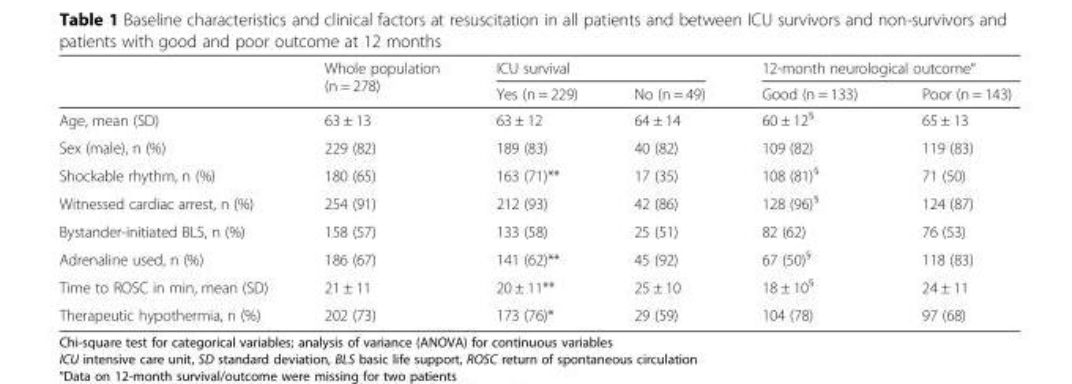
<table><thead><tr><td rowspan="2"></td><td rowspan="2">Whole population (n = 278)</td><td colspan="2">ICU survival</td><td colspan="2">12-month neurological outcome°</td></tr><tr><td>Yes (n = 229)</td><td>No (n = 49)</td><td>Good (n = 133)</td><td>Poor (n = 143)</td></tr></thead><tbody><tr><td>Age, mean (SD)</td><td>63 ± 13</td><td>63 ± 12</td><td>64 ± 14</td><td>60 ± 12<sup>§</sup></td><td>65 ± 13</td></tr><tr><td>Sex (male), n (%)</td><td>229 (82)</td><td>189 (83)</td><td>40 (82)</td><td>109 (82)</td><td>119 (83)</td></tr><tr><td>Shockable rhythm, n (%)</td><td>180 (65)</td><td>163 (71)**</td><td>17 (35)</td><td>108 (81)<sup>§</sup></td><td>71 (50)</td></tr><tr><td>Witnessed cardiac arrest, n (%)</td><td>254 (91)</td><td>212 (93)</td><td>42 (86)</td><td>128 (96)<sup>§</sup></td><td>124 (87)</td></tr><tr><td>Bystander-initiated BLS, n (%)</td><td>158 (57)</td><td>133 (58)</td><td>25 (51)</td><td>82 (62)</td><td>76 (53)</td></tr><tr><td>Adrenaline used, n (%)</td><td>186 (67)</td><td>141 (62)**</td><td>45 (92)</td><td>67 (50)<sup>§</sup></td><td>118 (83)</td></tr><tr><td>Time to ROSC in min, mean (SD)</td><td>21 ± 11</td><td>20 ± 11**</td><td>25 ± 10</td><td>18 ± 10<sup>§</sup></td><td>24 ± 11</td></tr><tr><td>Therapeutic hypothermia, n (%)</td><td>202 (73)</td><td>173 (76)*</td><td>29 (59)</td><td>104 (78)</td><td>97 (68)</td></tr></tbody></table>